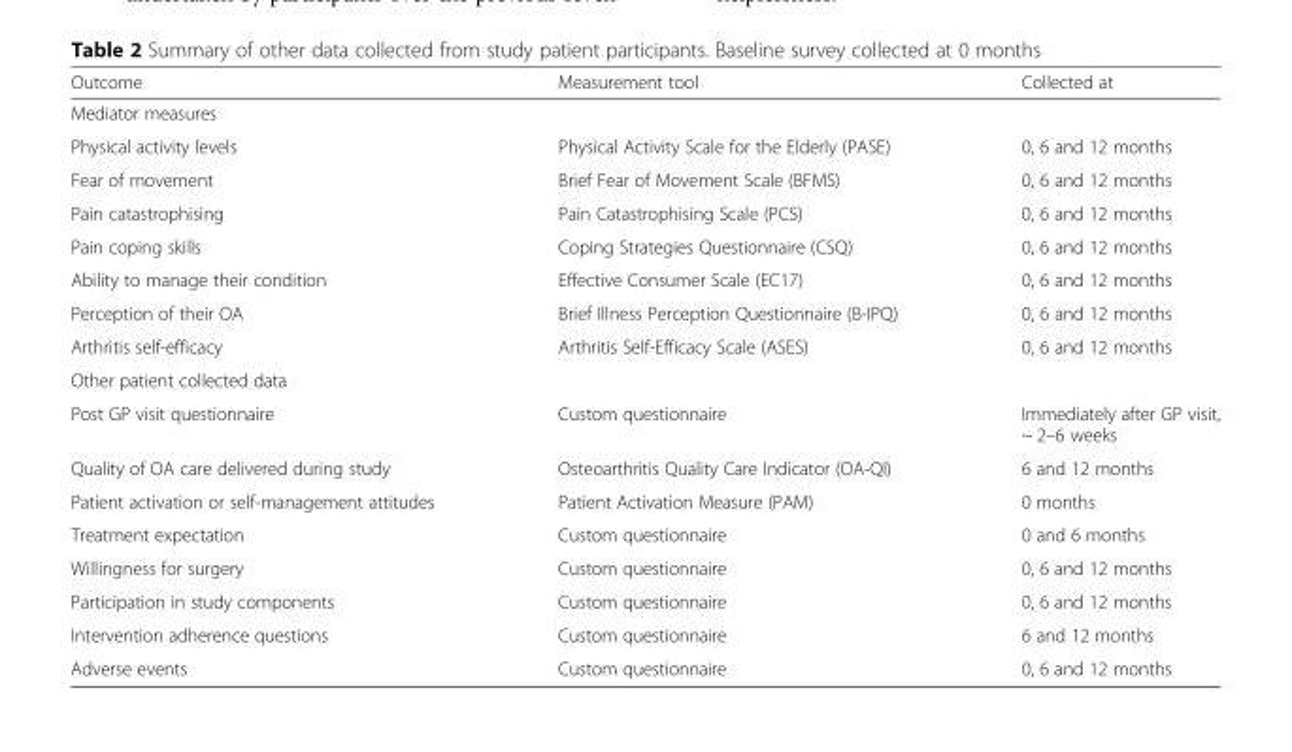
<table><thead><tr><td>Outcome</td><td>Measurement tool</td><td>Collected at</td></tr></thead><tbody><tr><td colspan="3">Mediator measures</td></tr><tr><td>Physical activity levels</td><td>Physical Activity Scale for the Elderly (PASE)</td><td>0, 6 and 12 months</td></tr><tr><td>Fear of movement</td><td>Brief Fear of Movement Scale (BFMS)</td><td>0, 6 and 12 months</td></tr><tr><td>Pain catastrophising</td><td>Pain Catastrophising Scale (PCS)</td><td>0, 6 and 12 months</td></tr><tr><td>Pain coping skills</td><td>Coping Strategies Questionnaire (CSQ)</td><td>0, 6 and 12 months</td></tr><tr><td>Ability to manage their condition</td><td>Effective Consumer Scale (EC17)</td><td>0, 6 and 12 months</td></tr><tr><td>Perception of their OA</td><td>Brief Illness Perception Questionnaire (B-IPQ)</td><td>0, 6 and 12 months</td></tr><tr><td>Arthritis self-efficacy</td><td>Arthritis Self-Efficacy Scale (ASES)</td><td>0, 6 and 12 months</td></tr><tr><td colspan="3">Other patient collected data</td></tr><tr><td>Post GP visit questionnaire</td><td>Custom questionnaire</td><td>Immediately after GP visit, ~ 2–6 weeks</td></tr><tr><td>Quality of OA care delivered during study</td><td>Osteoarthritis Quality Care Indicator (OA-QI)</td><td>6 and 12 months</td></tr><tr><td>Patient activation or self-management attitudes</td><td>Patient Activation Measure (PAM)</td><td>0 months</td></tr><tr><td>Treatment expectation</td><td>Custom questionnaire</td><td>0 and 6 months</td></tr><tr><td>Willingness for surgery</td><td>Custom questionnaire</td><td>0, 6 and 12 months</td></tr><tr><td>Participation in study components</td><td>Custom questionnaire</td><td>0, 6 and 12 months</td></tr><tr><td>Intervention adherence questions</td><td>Custom questionnaire</td><td>6 and 12 months</td></tr><tr><td>Adverse events</td><td>Custom questionnaire</td><td>0, 6 and 12 months</td></tr></tbody></table>